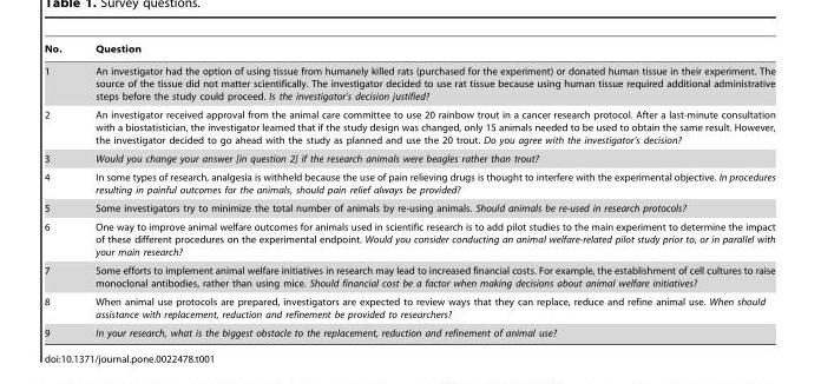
<table><thead><tr><td>No.</td><td>Question</td></tr></thead><tbody><tr><td>1</td><td>An investigator had the option of using tissue from humanely killed rats (purchased for the experiment) or donated human tissue in their experiment. The source of the tissue did not matter scientifically. The investigator decided to use rat tissue because using human tissue required additional administrative steps before the study could proceed. Is the investigator’s decision justified?</td></tr><tr><td>2</td><td>An investigator received approval from the animal care committee to use 20 rainbow trout in a cancer research protocol. After a last-minute consultation with a biostatistician, the investigator learned that if the study design was changed, only 15 animals needed to be used to obtain the same result. However, the investigator decided to go ahead with the study as planned and use the 20 trout. Do you agree with the investigator’s decision?</td></tr><tr><td>3</td><td>Would you change your answer [in question 2] if the research animals were beagles rather than trout?</td></tr><tr><td>4</td><td>In some types of research, analgesia is withheld because the use of pain relieving drugs is thought to interfere with the experimental objective. In procedures resulting in painful outcomes for the animals, should pain relief always be provided?</td></tr><tr><td>5</td><td>Some investigators try to minimize the total number of animals by re-using animals. Should animals be re-used in research protocols?</td></tr><tr><td>6</td><td>One way to improve animal welfare outcomes for animals used in scientific research is to add pilot studies to the main experiment to determine the impact of these different procedures on the experimental endpoint. Would you consider conducting an animal welfare-related pilot study prior to, or in parallel with your main research?</td></tr><tr><td>7</td><td>Some efforts to implement animal welfare initiatives in research may lead to increased financial costs. For example, the establishment of cell cultures to raise monoclonal antibodies, rather than using mice. Should financial cost be a factor when making decisions about animal welfare initiatives?</td></tr><tr><td>8</td><td>When animal use protocols are prepared, investigators are expected to review ways that they can replace, reduce and refine animal use. When should assistance with replacement, reduction and refinement be provided to researchers?</td></tr><tr><td>9</td><td>In your research, what is the biggest obstacle to the replacement, reduction and refinement of animal use?</td></tr></tbody></table>